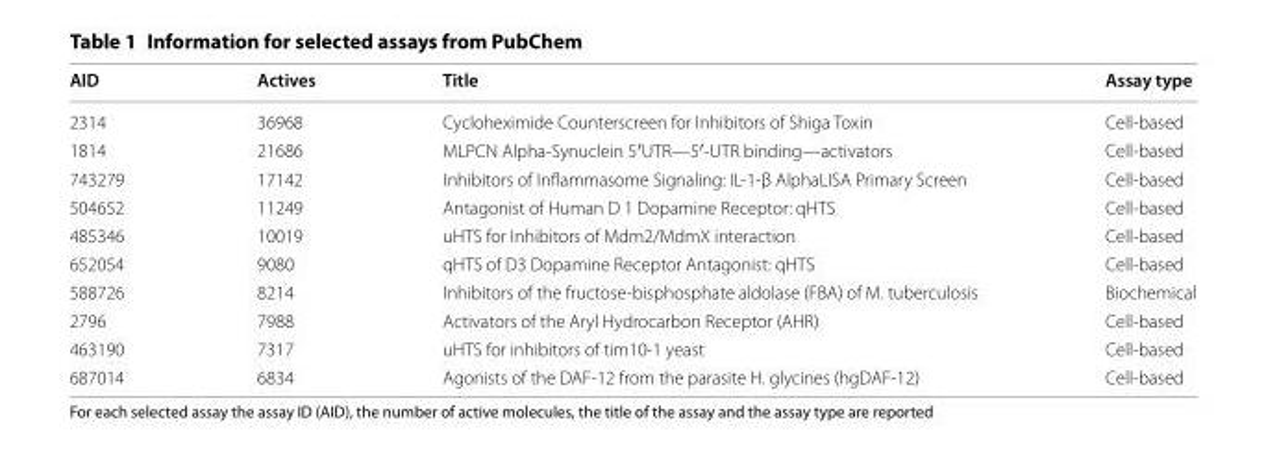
<table><thead><tr><td>AID</td><td>Actives</td><td>Title</td><td>Assay type</td></tr></thead><tbody><tr><td>2314</td><td>36968</td><td>Cycloheximide Counterscreen for Inhibitors of Shiga Toxin</td><td>Cell-based</td></tr><tr><td>1814</td><td>21686</td><td>MLPCN Alpha-Synuclein 5′UTR—5′-UTR binding—activators</td><td>Cell-based</td></tr><tr><td>743279</td><td>17142</td><td>Inhibitors of Inflammasome Signaling: IL-1-β AlphaLISA Primary Screen</td><td>Cell-based</td></tr><tr><td>504652</td><td>11249</td><td>Antagonist of Human D 1 Dopamine Receptor: qHTS</td><td>Cell-based</td></tr><tr><td>485346</td><td>10019</td><td>uHTS for Inhibitors of Mdm2/MdmX interaction</td><td>Cell-based</td></tr><tr><td>652054</td><td>9080</td><td>qHTS of D3 Dopamine Receptor Antagonist: qHTS</td><td>Cell-based</td></tr><tr><td>588726</td><td>8214</td><td>Inhibitors of the fructose-bisphosphate aldolase (FBA) of M. tuberculosis</td><td>Biochemical</td></tr><tr><td>2796</td><td>7988</td><td>Activators of the Aryl Hydrocarbon Receptor (AHR)</td><td>Cell-based</td></tr><tr><td>463190</td><td>7317</td><td>uHTS for inhibitors of tim10-1 yeast</td><td>Cell-based</td></tr><tr><td>687014</td><td>6834</td><td>Agonists of the DAF-12 from the parasite H. glycines (hgDAF-12)</td><td>Cell-based</td></tr></tbody></table>